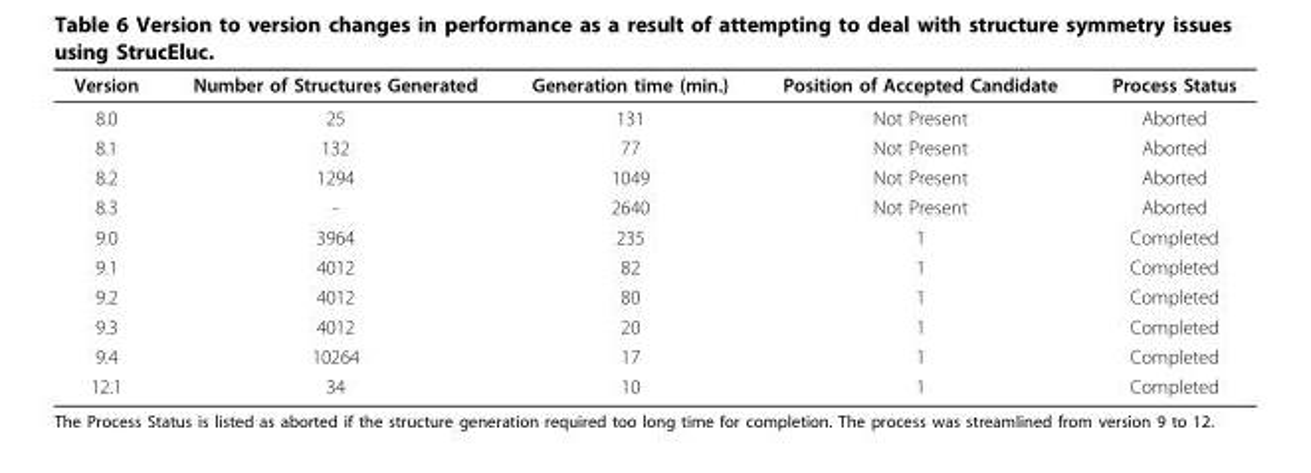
<table><thead><tr><td>Version</td><td>Number of Structures Generated</td><td>Generation time (min.)</td><td>Position of Accepted Candidate</td><td>Process Status</td></tr></thead><tbody><tr><td>8.0</td><td>25</td><td>131</td><td>Not Present</td><td>Aborted</td></tr><tr><td>8.1</td><td>132</td><td>77</td><td>Not Present</td><td>Aborted</td></tr><tr><td>8.2</td><td>1294</td><td>1049</td><td>Not Present</td><td>Aborted</td></tr><tr><td>8.3</td><td>-</td><td>2640</td><td>Not Present</td><td>Aborted</td></tr><tr><td>9.0</td><td>3964</td><td>235</td><td>1</td><td>Completed</td></tr><tr><td>9.1</td><td>4012</td><td>82</td><td>1</td><td>Completed</td></tr><tr><td>9.2</td><td>4012</td><td>80</td><td>1</td><td>Completed</td></tr><tr><td>9.3</td><td>4012</td><td>20</td><td>1</td><td>Completed</td></tr><tr><td>9.4</td><td>10264</td><td>17</td><td>1</td><td>Completed</td></tr><tr><td>12.1</td><td>34</td><td>10</td><td>1</td><td>Completed</td></tr></tbody></table>